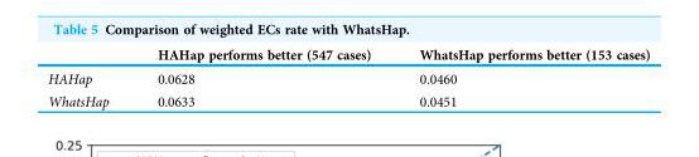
<table><thead><tr><td></td><td>HAHap performs better (547 cases)</td><td>WhatsHap performs better (153 cases)</td></tr></thead><tbody><tr><td>HAHap</td><td>0.0628</td><td>0.0460</td></tr><tr><td>WhatsHap</td><td>0.0633</td><td>0.0451</td></tr></tbody></table>